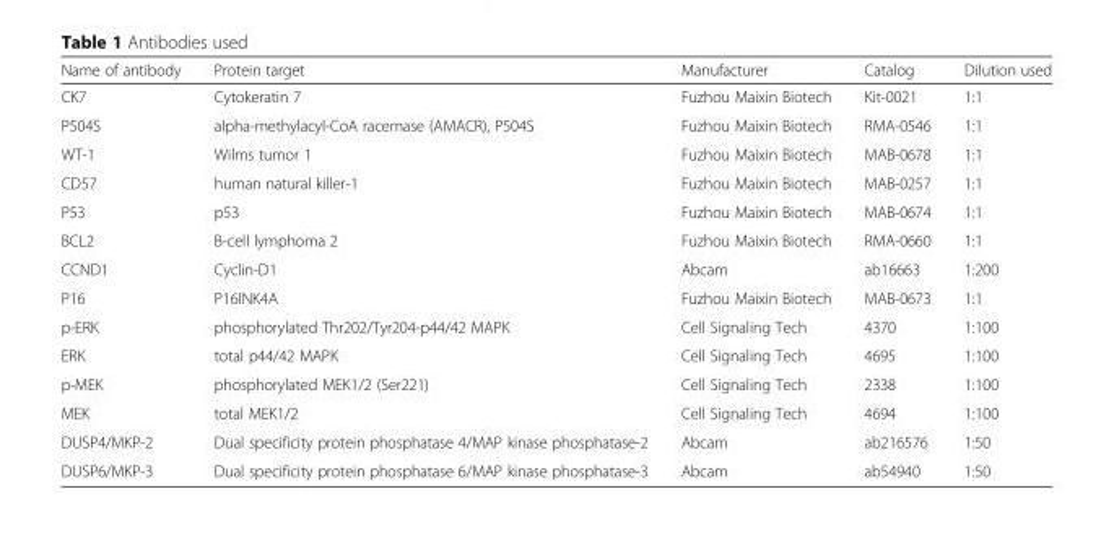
<table><thead><tr><td>Name of antibody</td><td>Protein target</td><td>Manufacturer</td><td>Catalog</td><td>Dilution used</td></tr></thead><tbody><tr><td>CK7</td><td>Cytokeratin 7</td><td>Fuzhou Maixin Biotech</td><td>Kit-0021</td><td>1:1</td></tr><tr><td>P504S</td><td>alpha-methylacyl-CoA racemase (AMACR), P504S</td><td>Fuzhou Maixin Biotech</td><td>RMA-0546</td><td>1:1</td></tr><tr><td>WT-1</td><td>Wilms tumor 1</td><td>Fuzhou Maixin Biotech</td><td>MAB-0678</td><td>1:1</td></tr><tr><td>CD57</td><td>human natural killer-1</td><td>Fuzhou Maixin Biotech</td><td>MAB-0257</td><td>1:1</td></tr><tr><td>P53</td><td>p53</td><td>Fuzhou Maixin Biotech</td><td>MAB-0674</td><td>1:1</td></tr><tr><td>BCL2</td><td>B-cell lymphoma 2</td><td>Fuzhou Maixin Biotech</td><td>RMA-0660</td><td>1:1</td></tr><tr><td>CCND1</td><td>Cyclin-D1</td><td>Abcam</td><td>ab16663</td><td>1:200</td></tr><tr><td>P16</td><td>P16INK4A</td><td>Fuzhou Maixin Biotech</td><td>MAB-0673</td><td>1:1</td></tr><tr><td>p-ERK</td><td>phosphorylated Thr202/Tyr204-p44/42 MAPK</td><td>Cell Signaling Tech</td><td>4370</td><td>1:100</td></tr><tr><td>ERK</td><td>total p44/42 MAPK</td><td>Cell Signaling Tech</td><td>4695</td><td>1:100</td></tr><tr><td>p-MEK</td><td>phosphorylated MEK1/2 (Ser221)</td><td>Cell Signaling Tech</td><td>2338</td><td>1:100</td></tr><tr><td>MEK</td><td>total MEK1/2</td><td>Cell Signaling Tech</td><td>4694</td><td>1:100</td></tr><tr><td>DUSP4/MKP-2</td><td>Dual specificity protein phosphatase 4/MAP kinase phosphatase-2</td><td>Abcam</td><td>ab216576</td><td>1:50</td></tr><tr><td>DUSP6/MKP-3</td><td>Dual specificity protein phosphatase 6/MAP kinase phosphatase-3</td><td>Abcam</td><td>ab54940</td><td>1:50</td></tr></tbody></table>